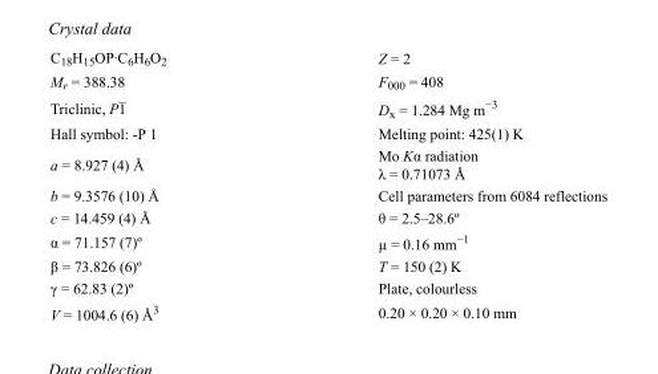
<table><tbody><tr><td>C<sub>18</sub>H<sub>15</sub>OP·C<sub>6</sub>H<sub>6</sub>O<sub>2</sub></td><td>Z = 2</td></tr><tr><td>M<sub>r</sub> = 388.38</td><td>F<sub>000</sub> = 408</td></tr><tr><td>Triclinic, P1</td><td>D<sub>x</sub> = 1.284 Mg m<sup>−3</sup></td></tr><tr><td>Hall symbol: -P 1</td><td>Melting point: 425(1) K</td></tr><tr><td>a = 8.927 (4) Å</td><td>Mo Kα radiation λ = 0.71073 Å</td></tr><tr><td>b = 9.3576 (10) Å</td><td>Cell parameters from 6084 reflections</td></tr><tr><td>c = 14.459 (4) Å</td><td>θ = 2.5–28.6º</td></tr><tr><td>α = 71.157 (7)º</td><td>µ = 0.16 mm<sup>−1</sup></td></tr><tr><td>β = 73.826 (6)º</td><td>T = 150 (2) K</td></tr><tr><td>γ = 62.83 (2)º</td><td>Plate, colourless</td></tr><tr><td>V = 1004.6 (6) Å<sup>3</sup></td><td>0.20 × 0.20 × 0.10 mm</td></tr></tbody></table>